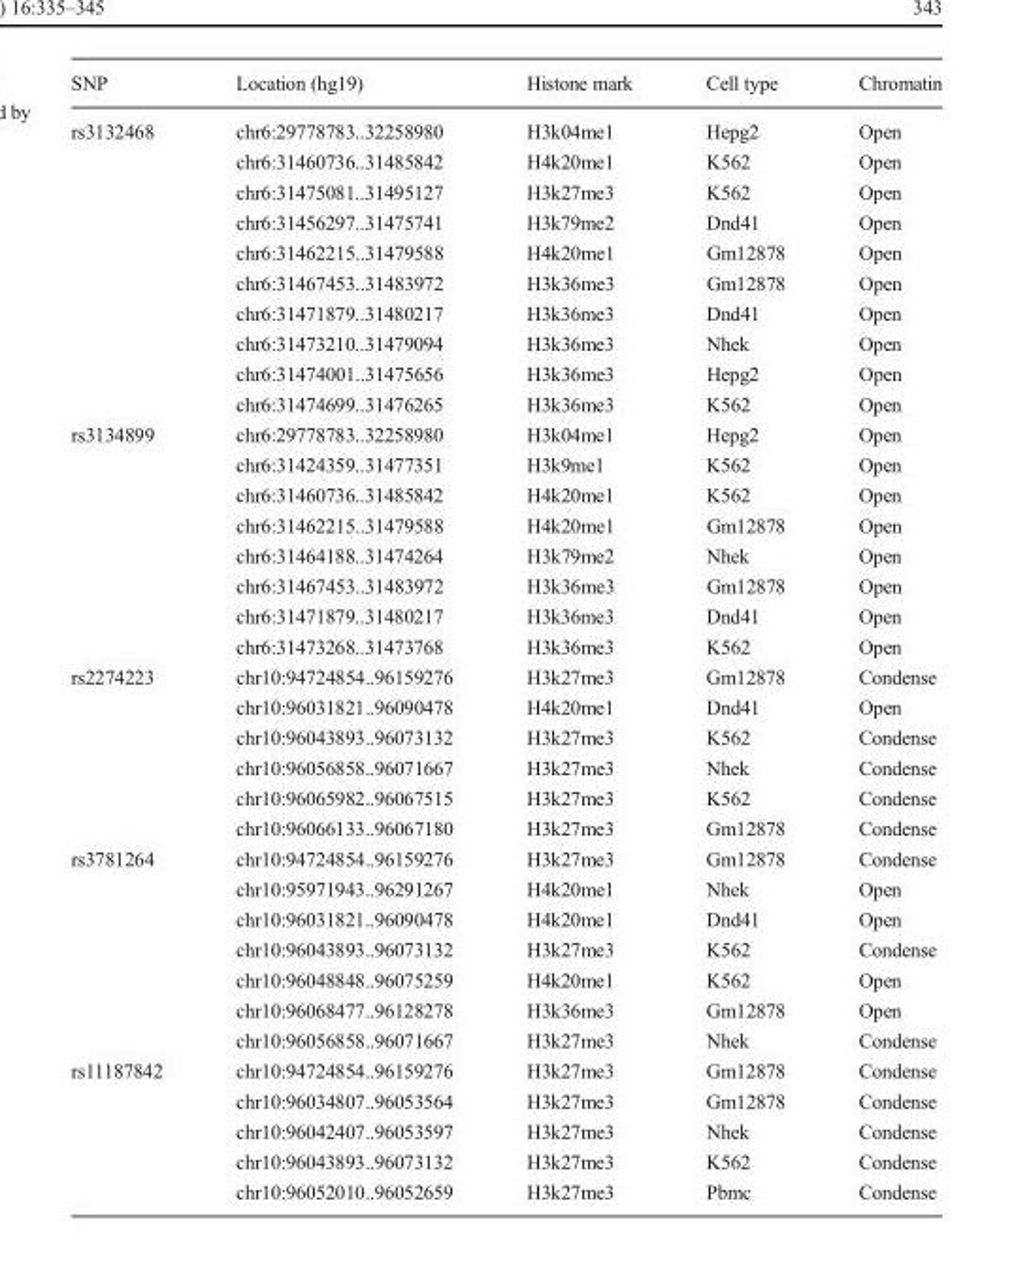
<table><thead><tr><td>SNP</td><td>Location (hg19)</td><td>Histone mark</td><td>Cell type</td><td>Chromatin</td></tr></thead><tbody><tr><td rowspan="10">rs3132468</td><td>chr6:29778783..32258980</td><td>H3k04me1</td><td>Hepg2</td><td>Open</td></tr><tr><td>chr6:31460736..31485842</td><td>H4k20me1</td><td>K562</td><td>Open</td></tr><tr><td>chr6:31475081..31495127</td><td>H3k27me3</td><td>K562</td><td>Open</td></tr><tr><td>chr6:31456297..31475741</td><td>H3k79me2</td><td>Dnd41</td><td>Open</td></tr><tr><td>chr6:31462215..31479588</td><td>H4k20me1</td><td>Gm12878</td><td>Open</td></tr><tr><td>chr6:31467453..31483972</td><td>H3k36me3</td><td>Gm12878</td><td>Open</td></tr><tr><td>chr6:31471879..31480217</td><td>H3k36me3</td><td>Dnd41</td><td>Open</td></tr><tr><td>chr6:31473210..31479094</td><td>H3k36me3</td><td>Nhek</td><td>Open</td></tr><tr><td>chr6:31474001..31475656</td><td>H3k36me3</td><td>Hepg2</td><td>Open</td></tr><tr><td>chr6:31474699..31476265</td><td>H3k36me3</td><td>K562</td><td>Open</td></tr><tr><td rowspan="8">rs3134899</td><td>chr6:29778783..32258980</td><td>H3k04me1</td><td>Hepg2</td><td>Open</td></tr><tr><td>chr6:31424359..31477351</td><td>H3k9me1</td><td>K562</td><td>Open</td></tr><tr><td>chr6:31460736..31485842</td><td>H4k20me1</td><td>K562</td><td>Open</td></tr><tr><td>chr6:31462215..31479588</td><td>H4k20me1</td><td>Gm12878</td><td>Open</td></tr><tr><td>chr6:31464188..31474264</td><td>H3k79me2</td><td>Nhek</td><td>Open</td></tr><tr><td>chr6:31467453..31483972</td><td>H3k36me3</td><td>Gm12878</td><td>Open</td></tr><tr><td>chr6:31471879..31480217</td><td>H3k36me3</td><td>Dnd41</td><td>Open</td></tr><tr><td>chr6:31473268..31473768</td><td>H3k36me3</td><td>K562</td><td>Open</td></tr><tr><td rowspan="6">rs2274223</td><td>chr10:94724854..96159276</td><td>H3k27me3</td><td>Gm12878</td><td>Condense</td></tr><tr><td>chr10:96031821..96090478</td><td>H4k20me1</td><td>Dnd41</td><td>Open</td></tr><tr><td>chr10:96043893..96073132</td><td>H3k27me3</td><td>K562</td><td>Condense</td></tr><tr><td>chr10:96056858..96071667</td><td>H3k27me3</td><td>Nhek</td><td>Condense</td></tr><tr><td>chr10:96065982..96067515</td><td>H3k27me3</td><td>K562</td><td>Condense</td></tr><tr><td>chr10:96066133..96067180</td><td>H3k27me3</td><td>Gm12878</td><td>Condense</td></tr><tr><td rowspan="7">rs3781264</td><td>chr10:94724854..96159276</td><td>H3k27me3</td><td>Gm12878</td><td>Condense</td></tr><tr><td>chr10:95971943..96291267</td><td>H4k20me1</td><td>Nhek</td><td>Open</td></tr><tr><td>chr10:96031821..96090478</td><td>H4k20me1</td><td>Dnd41</td><td>Open</td></tr><tr><td>chr10:96043893..96073132</td><td>H3k27me3</td><td>K562</td><td>Condense</td></tr><tr><td>chr10:96048848..96075259</td><td>H4k20me1</td><td>K562</td><td>Open</td></tr><tr><td>chr10:96068477..96128278</td><td>H3k36me3</td><td>Gm12878</td><td>Open</td></tr><tr><td>chr10:96056858..96071667</td><td>H3k27me3</td><td>Nhek</td><td>Condense</td></tr><tr><td rowspan="5">rs11187842</td><td>chr10:94724854..96159276</td><td>H3k27me3</td><td>Gm12878</td><td>Condense</td></tr><tr><td>chr10:96034807..96053564</td><td>H3k27me3</td><td>Gm12878</td><td>Condense</td></tr><tr><td>chr10:96042407..96053597</td><td>H3k27me3</td><td>Nhek</td><td>Condense</td></tr><tr><td>chr10:96043893..96073132</td><td>H3k27me3</td><td>K562</td><td>Condense</td></tr><tr><td>chr10:96052010..96052659</td><td>H3k27me3</td><td>Pbmc</td><td>Condense</td></tr></tbody></table>